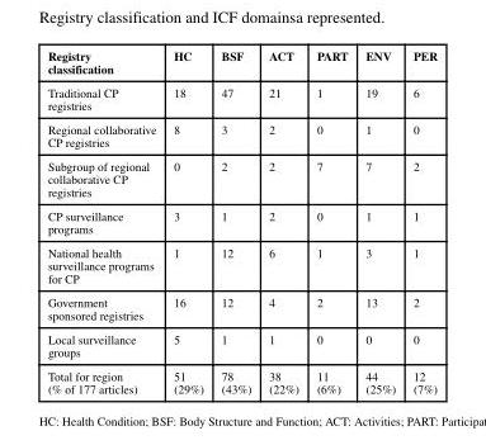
<table><thead><tr><td>Registry classification</td><td>HC</td><td>BSF</td><td>ACT</td><td>PART</td><td>ENV</td><td>PER</td></tr></thead><tbody><tr><td>Traditional CP registries</td><td>18</td><td>47</td><td>21</td><td>1</td><td>19</td><td>6</td></tr><tr><td>Regional collaborative CP registries</td><td>8</td><td>3</td><td>2</td><td>0</td><td>1</td><td>0</td></tr><tr><td>Subgroup of regional collaborative CP registries</td><td>0</td><td>2</td><td>2</td><td>7</td><td>7</td><td>2</td></tr><tr><td>CP surveillance programs</td><td>3</td><td>1</td><td>2</td><td>0</td><td>1</td><td>1</td></tr><tr><td>National health surveillance programs for CP</td><td>1</td><td>12</td><td>6</td><td>1</td><td>3</td><td>1</td></tr><tr><td>Government sponsored registries</td><td>16</td><td>12</td><td>4</td><td>2</td><td>13</td><td>2</td></tr><tr><td>Local surveillance groups</td><td>5</td><td>1</td><td>1</td><td>0</td><td>0</td><td>0</td></tr><tr><td>Total for region (% of 177 articles)</td><td>51 (29%)</td><td>78 (43%)</td><td>38 (22%)</td><td>11 (6%)</td><td>44 (25%)</td><td>12 (7%)</td></tr></tbody></table>